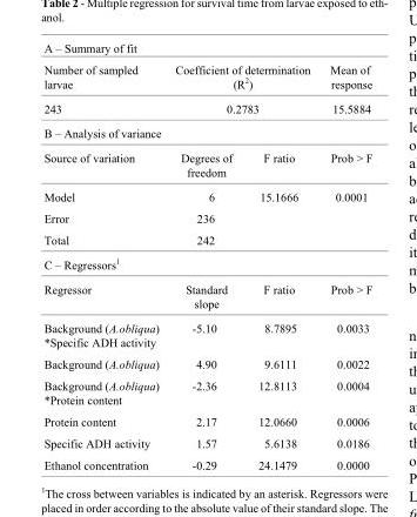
<table><thead><tr><td colspan="4">A – Summary of fit</td></tr></thead><tbody><tr><td>Number of sampled larvae</td><td colspan="2">Coefficient of determination (R<sup>2</sup>)</td><td>Mean of response</td></tr><tr><td>243</td><td colspan="2">0.2783</td><td>15.5884</td></tr><tr><td colspan="4">B – Analysis of variance</td></tr><tr><td>Source of variation</td><td>Degrees of freedom</td><td>F ratio</td><td>Prob &gt; F</td></tr><tr><td>Model</td><td>6</td><td>15.1666</td><td>0.0001</td></tr><tr><td>Error</td><td>236</td><td></td><td></td></tr><tr><td>Total</td><td>242</td><td></td><td></td></tr><tr><td colspan="4">C – Regressors<sup>1</sup></td></tr><tr><td>Regressor</td><td>Standard slope</td><td>F ratio</td><td>Prob &gt; F</td></tr><tr><td>Background (A.obliqua) *Specific ADH activity</td><td>-5.10</td><td>8.7895</td><td>0.0033</td></tr><tr><td>Background (A.obliqua)</td><td>4.90</td><td>9.6111</td><td>0.0022</td></tr><tr><td>Background (A.obliqua) *Protein content</td><td>-2.36</td><td>12.8113</td><td>0.0004</td></tr><tr><td>Protein content</td><td>2.17</td><td>12.0660</td><td>0.0006</td></tr><tr><td>Specific ADH activity</td><td>1.57</td><td>5.6138</td><td>0.0186</td></tr><tr><td>Ethanol concentration</td><td>-0.29</td><td>24.1479</td><td>0.0000</td></tr></tbody></table>